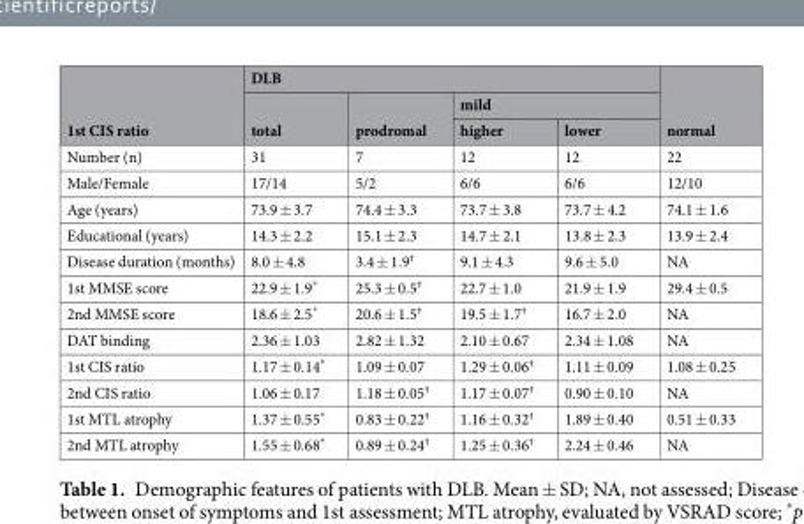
<table><thead><tr><td rowspan="3">1st CIS ratio</td><td colspan="4">DLB</td><td rowspan="3">normal</td></tr><tr><td rowspan="2">total</td><td rowspan="2">prodromal</td><td colspan="2">mild</td></tr><tr><td>higher</td><td>lower</td></tr></thead><tbody><tr><td>Number (n)</td><td>31</td><td>7</td><td>12</td><td>12</td><td>22</td></tr><tr><td>Male/Female</td><td>17/14</td><td>5/2</td><td>6/6</td><td>6/6</td><td>12/10</td></tr><tr><td>Age (years)</td><td>73.9 ± 3.7</td><td>74.4 ± 3.3</td><td>73.7 ± 3.8</td><td>73.7 ± 4.2</td><td>74.1 ± 1.6</td></tr><tr><td>Educational (years)</td><td>14.3 ± 2.2</td><td>15.1 ± 2.3</td><td>14.7 ± 2.1</td><td>13.8 ± 2.3</td><td>13.9 ± 2.4</td></tr><tr><td>Disease duration (months)</td><td>8.0 ± 4.8</td><td>3.4 ± 1.9<sup>†</sup></td><td>9.1 ± 4.3</td><td>9.6 ± 5.0</td><td>NA</td></tr><tr><td>1st MMSE score</td><td>22.9 ± 1.9*</td><td>25.3 ± 0.5<sup>†</sup></td><td>22.7 ± 1.0</td><td>21.9 ± 1.9</td><td>29.4 ± 0.5</td></tr><tr><td>2nd MMSE score</td><td>18.6 ± 2.5*</td><td>20.6 ± 1.5<sup>†</sup></td><td>19.5 ± 1.7<sup>†</sup></td><td>16.7 ± 2.0</td><td>NA</td></tr><tr><td>DAT binding</td><td>2.36 ± 1.03</td><td>2.82 ± 1.32</td><td>2.10 ± 0.67</td><td>2.34 ± 1.08</td><td>NA</td></tr><tr><td>1st CIS ratio</td><td>1.17 ± 0.14*</td><td>1.09 ± 0.07</td><td>1.29 ± 0.06<sup>†</sup></td><td>1.11 ± 0.09</td><td>1.08 ± 0.25</td></tr><tr><td>2nd CIS ratio</td><td>1.06 ± 0.17</td><td>1.18 ± 0.05<sup>†</sup></td><td>1.17 ± 0.07<sup>†</sup></td><td>0.90 ± 0.10</td><td>NA</td></tr><tr><td>1st MTL atrophy</td><td>1.37 ± 0.55*</td><td>0.83 ± 0.22<sup>†</sup></td><td>1.16 ± 0.32<sup>†</sup></td><td>1.89 ± 0.40</td><td>0.51 ± 0.33</td></tr><tr><td>2nd MTL atrophy</td><td>1.55 ± 0.68*</td><td>0.89 ± 0.24<sup>†</sup></td><td>1.25 ± 0.36<sup>†</sup></td><td>2.24 ± 0.46</td><td>NA</td></tr></tbody></table>